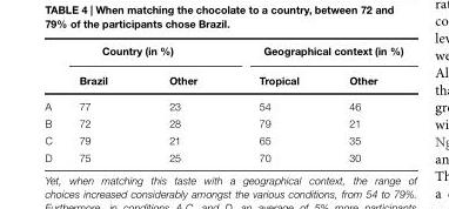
<table><thead><tr><td rowspan="2"></td><td colspan="2">Country (in %)</td><td colspan="2">Geographical context (in %)</td></tr><tr><td>Brazil</td><td>Other</td><td>Tropical</td><td>Other</td></tr></thead><tbody><tr><td>A</td><td>77</td><td>23</td><td>54</td><td>46</td></tr><tr><td>B</td><td>72</td><td>28</td><td>79</td><td>21</td></tr><tr><td>C</td><td>79</td><td>21</td><td>65</td><td>35</td></tr><tr><td>D</td><td>75</td><td>25</td><td>70</td><td>30</td></tr></tbody></table>